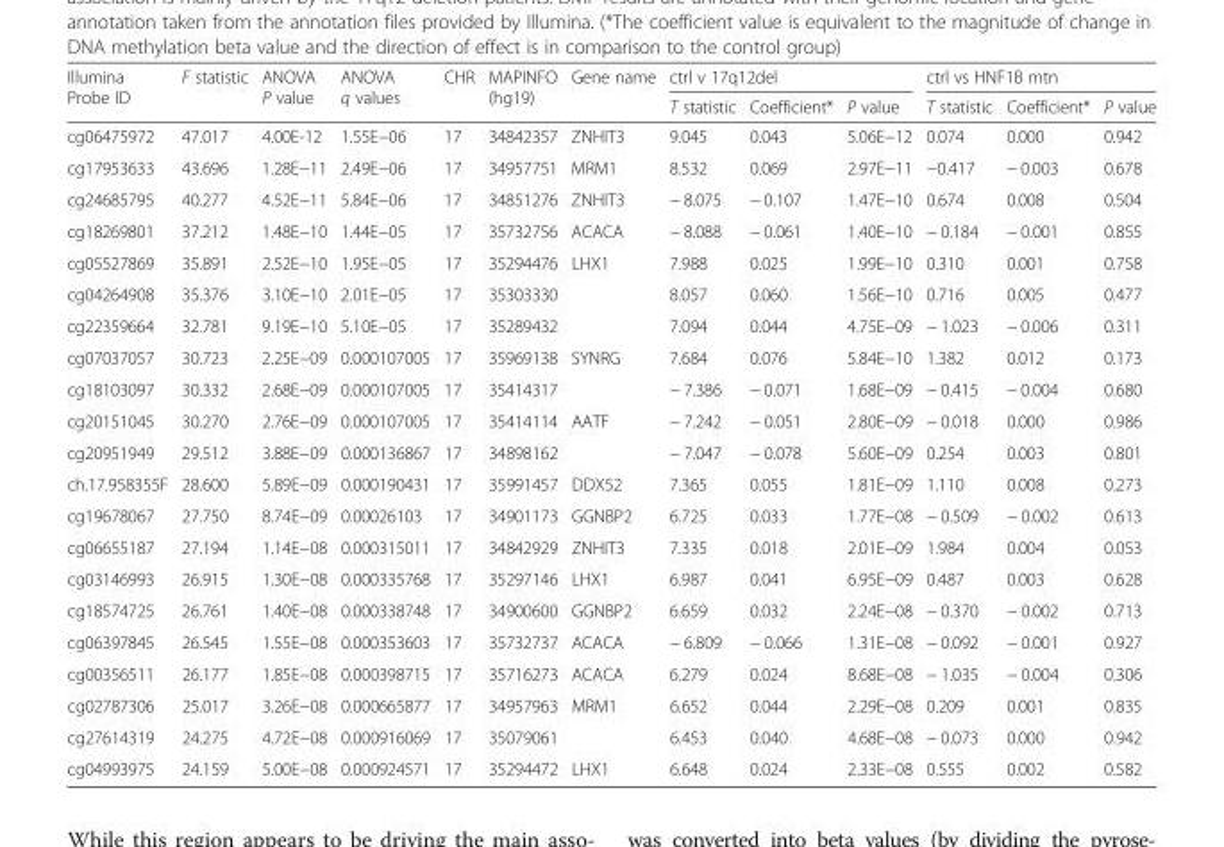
<table><thead><tr><td rowspan="2">Illumina Probe ID</td><td rowspan="2">F statistic</td><td rowspan="2">ANOVA P value</td><td rowspan="2">ANOVA q values</td><td rowspan="2">CHR</td><td rowspan="2">MAPINFO (hg19)</td><td rowspan="2">Gene name</td><td colspan="3">ctrl v 17q12del</td><td colspan="3">ctrl vs HNF1B mtn</td></tr><tr><td>T statistic</td><td>Coefficient*</td><td>P value</td><td>T statistic</td><td>Coefficient*</td><td>P value</td></tr></thead><tbody><tr><td>cg06475972</td><td>47.017</td><td>4.00E-12</td><td>1.55E−06</td><td>17</td><td>34842357</td><td>ZNHIT3</td><td>9.045</td><td>0.043</td><td>5.06E−12</td><td>0.074</td><td>0.000</td><td>0.942</td></tr><tr><td>cg17953633</td><td>43.696</td><td>1.28E−11</td><td>2.49E−06</td><td>17</td><td>34957751</td><td>MRM1</td><td>8.532</td><td>0.069</td><td>2.97E−11</td><td>−0.417</td><td>− 0.003</td><td>0.678</td></tr><tr><td>cg24685795</td><td>40.277</td><td>4.52E−11</td><td>5.84E−06</td><td>17</td><td>34851276</td><td>ZNHIT3</td><td>− 8.075</td><td>− 0.107</td><td>1.47E−10</td><td>0.674</td><td>0.008</td><td>0.504</td></tr><tr><td>cg18269801</td><td>37.212</td><td>1.48E−10</td><td>1.44E−05</td><td>17</td><td>35732756</td><td>ACACA</td><td>− 8.088</td><td>− 0.061</td><td>1.40E−10</td><td>− 0.184</td><td>− 0.001</td><td>0.855</td></tr><tr><td>cg05527869</td><td>35.891</td><td>2.52E−10</td><td>1.95E−05</td><td>17</td><td>35294476</td><td>LHX1</td><td>7.988</td><td>0.025</td><td>1.99E−10</td><td>0.310</td><td>0.001</td><td>0.758</td></tr><tr><td>cg04264908</td><td>35.376</td><td>3.10E−10</td><td>2.01E−05</td><td>17</td><td>35303330</td><td></td><td>8.057</td><td>0.060</td><td>1.56E−10</td><td>0.716</td><td>0.005</td><td>0.477</td></tr><tr><td>cg22359664</td><td>32.781</td><td>9.19E−10</td><td>5.10E−05</td><td>17</td><td>35289432</td><td></td><td>7.094</td><td>0.044</td><td>4.75E−09</td><td>− 1.023</td><td>− 0.006</td><td>0.311</td></tr><tr><td>cg07037057</td><td>30.723</td><td>2.25E−09</td><td>0.000107005</td><td>17</td><td>35969138</td><td>SYNRG</td><td>7.684</td><td>0.076</td><td>5.84E−10</td><td>1.382</td><td>0.012</td><td>0.173</td></tr><tr><td>cg18103097</td><td>30.332</td><td>2.68E−09</td><td>0.000107005</td><td>17</td><td>35414317</td><td></td><td>− 7.386</td><td>− 0.071</td><td>1.68E−09</td><td>− 0.415</td><td>− 0.004</td><td>0.680</td></tr><tr><td>cg20151045</td><td>30.270</td><td>2.76E−09</td><td>0.000107005</td><td>17</td><td>35414114</td><td>AATF</td><td>− 7.242</td><td>− 0.051</td><td>2.80E−09</td><td>− 0.018</td><td>0.000</td><td>0.986</td></tr><tr><td>cg20951949</td><td>29.512</td><td>3.88E−09</td><td>0.000136867</td><td>17</td><td>34898162</td><td></td><td>− 7.047</td><td>− 0.078</td><td>5.60E−09</td><td>0.254</td><td>0.003</td><td>0.801</td></tr><tr><td>ch.17.958355F</td><td>28.600</td><td>5.89E−09</td><td>0.000190431</td><td>17</td><td>35991457</td><td>DDX52</td><td>7.365</td><td>0.055</td><td>1.81E−09</td><td>1.110</td><td>0.008</td><td>0.273</td></tr><tr><td>cg19678067</td><td>27.750</td><td>8.74E−09</td><td>0.00026103</td><td>17</td><td>34901173</td><td>GGNBP2</td><td>6.725</td><td>0.033</td><td>1.77E−08</td><td>− 0.509</td><td>− 0.002</td><td>0.613</td></tr><tr><td>cg06655187</td><td>27.194</td><td>1.14E−08</td><td>0.000315011</td><td>17</td><td>34842929</td><td>ZNHIT3</td><td>7.335</td><td>0.018</td><td>2.01E−09</td><td>1.984</td><td>0.004</td><td>0.053</td></tr><tr><td>cg03146993</td><td>26.915</td><td>1.30E−08</td><td>0.000335768</td><td>17</td><td>35297146</td><td>LHX1</td><td>6.987</td><td>0.041</td><td>6.95E−09</td><td>0.487</td><td>0.003</td><td>0.628</td></tr><tr><td>cg18574725</td><td>26.761</td><td>1.40E−08</td><td>0.000338748</td><td>17</td><td>34900600</td><td>GGNBP2</td><td>6.659</td><td>0.032</td><td>2.24E−08</td><td>− 0.370</td><td>− 0.002</td><td>0.713</td></tr><tr><td>cg06397845</td><td>26.545</td><td>1.55E−08</td><td>0.000353603</td><td>17</td><td>35732737</td><td>ACACA</td><td>− 6.809</td><td>− 0.066</td><td>1.31E−08</td><td>− 0.092</td><td>− 0.001</td><td>0.927</td></tr><tr><td>cg00356511</td><td>26.177</td><td>1.85E−08</td><td>0.000398715</td><td>17</td><td>35716273</td><td>ACACA</td><td>6.279</td><td>0.024</td><td>8.68E−08</td><td>− 1.035</td><td>− 0.004</td><td>0.306</td></tr><tr><td>cg02787306</td><td>25.017</td><td>3.26E−08</td><td>0.000665877</td><td>17</td><td>34957963</td><td>MRM1</td><td>6.652</td><td>0.044</td><td>2.29E−08</td><td>0.209</td><td>0.001</td><td>0.835</td></tr><tr><td>cg27614319</td><td>24.275</td><td>4.72E−08</td><td>0.000916069</td><td>17</td><td>35079061</td><td></td><td>6.453</td><td>0.040</td><td>4.68E−08</td><td>− 0.073</td><td>0.000</td><td>0.942</td></tr><tr><td>cg04993975</td><td>24.159</td><td>5.00E−08</td><td>0.000924571</td><td>17</td><td>35294472</td><td>LHX1</td><td>6.648</td><td>0.024</td><td>2.33E−08</td><td>0.555</td><td>0.002</td><td>0.582</td></tr></tbody></table>